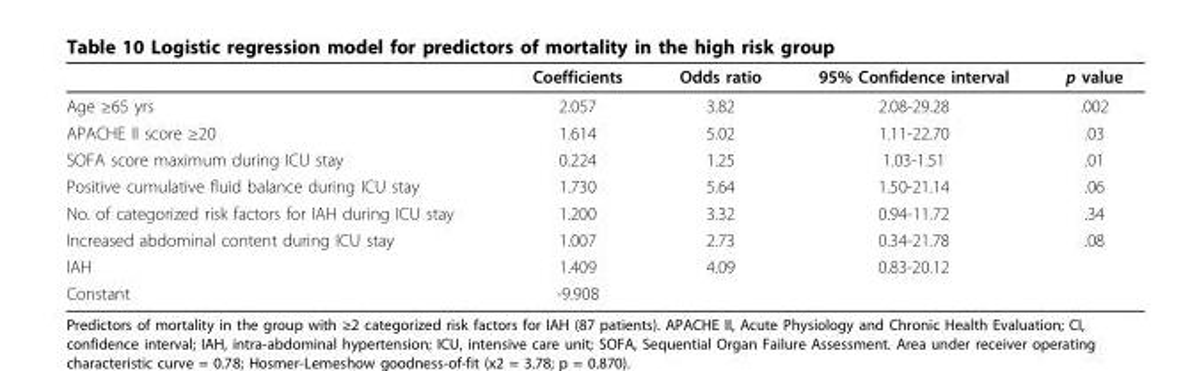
<table><thead><tr><td></td><td>Coefficients</td><td>Odds ratio</td><td>95% Confidence interval</td><td>p value</td></tr></thead><tbody><tr><td>Age ≥65 yrs</td><td>2.057</td><td>3.82</td><td>2.08-29.28</td><td>.002</td></tr><tr><td>APACHE II score ≥20</td><td>1.614</td><td>5.02</td><td>1.11-22.70</td><td>.03</td></tr><tr><td>SOFA score maximum during ICU stay</td><td>0.224</td><td>1.25</td><td>1.03-1.51</td><td>.01</td></tr><tr><td>Positive cumulative fluid balance during ICU stay</td><td>1.730</td><td>5.64</td><td>1.50-21.14</td><td>.06</td></tr><tr><td>No. of categorized risk factors for IAH during ICU stay</td><td>1.200</td><td>3.32</td><td>0.94-11.72</td><td>.34</td></tr><tr><td>Increased abdominal content during ICU stay</td><td>1.007</td><td>2.73</td><td>0.34-21.78</td><td>.08</td></tr><tr><td>IAH</td><td>1.409</td><td>4.09</td><td>0.83-20.12</td><td></td></tr><tr><td>Constant</td><td>-9.908</td><td></td><td></td><td></td></tr></tbody></table>